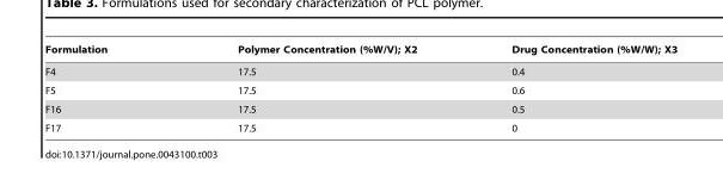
<table><thead><tr><td>Formulation</td><td>Polymer Concentration (%W/V); X2</td><td>Drug Concentration (%W/W); X3</td></tr></thead><tbody><tr><td>F4</td><td>17.5</td><td>0.4</td></tr><tr><td>F5</td><td>17.5</td><td>0.6</td></tr><tr><td>F16</td><td>17.5</td><td>0.5</td></tr><tr><td>F17</td><td>17.5</td><td>0</td></tr></tbody></table>